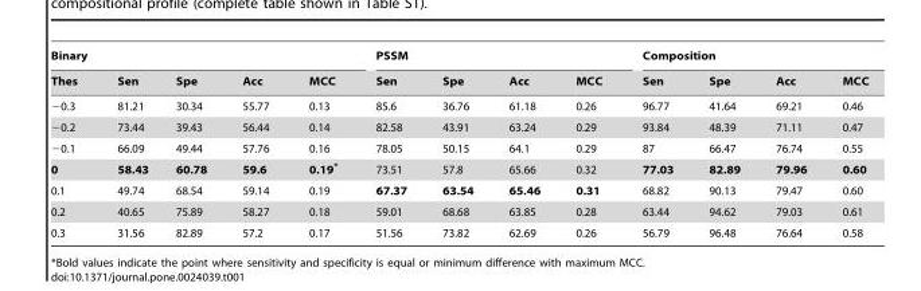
<table><thead><tr><td colspan="5">Binary</td><td colspan="4">PSSM</td><td colspan="4">Composition</td></tr><tr><td>Thes</td><td>Sen</td><td>Spe</td><td>Acc</td><td>MCC</td><td>Sen</td><td>Spe</td><td>Acc</td><td>MCC</td><td>Sen</td><td>Spe</td><td>Acc</td><td>MCC</td></tr></thead><tbody><tr><td>−0.3</td><td>81.21</td><td>30.34</td><td>55.77</td><td>0.13</td><td>85.6</td><td>36.76</td><td>61.18</td><td>0.26</td><td>96.77</td><td>41.64</td><td>69.21</td><td>0.46</td></tr><tr><td>−0.2</td><td>73.44</td><td>39.43</td><td>56.44</td><td>0.14</td><td>82.58</td><td>43.91</td><td>63.24</td><td>0.29</td><td>93.84</td><td>48.39</td><td>71.11</td><td>0.47</td></tr><tr><td>−0.1</td><td>66.09</td><td>49.44</td><td>57.76</td><td>0.16</td><td>78.05</td><td>50.15</td><td>64.1</td><td>0.29</td><td>87</td><td>66.47</td><td>76.74</td><td>0.55</td></tr><tr><td>0</td><td>58.43</td><td>60.78</td><td>59.6</td><td>0.19*</td><td>73.51</td><td>57.8</td><td>65.66</td><td>0.32</td><td>77.03</td><td>82.89</td><td>79.96</td><td>0.60</td></tr><tr><td>0.1</td><td>49.74</td><td>68.54</td><td>59.14</td><td>0.19</td><td>67.37</td><td>63.54</td><td>65.46</td><td>0.31</td><td>68.82</td><td>90.13</td><td>79.47</td><td>0.60</td></tr><tr><td>0.2</td><td>40.65</td><td>75.89</td><td>58.27</td><td>0.18</td><td>59.01</td><td>68.68</td><td>63.85</td><td>0.28</td><td>63.44</td><td>94.62</td><td>79.03</td><td>0.61</td></tr><tr><td>0.3</td><td>31.56</td><td>82.89</td><td>57.2</td><td>0.17</td><td>51.56</td><td>73.82</td><td>62.69</td><td>0.26</td><td>56.79</td><td>96.48</td><td>76.64</td><td>0.58</td></tr></tbody></table>